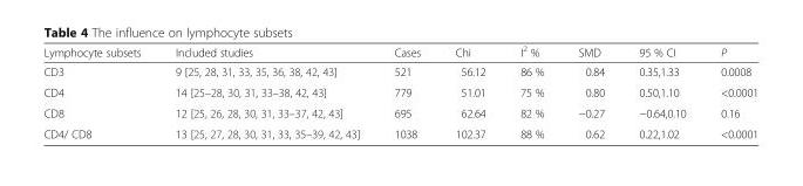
<table><thead><tr><td>Lymphocyte subsets</td><td>Included studies</td><td>Cases</td><td>Chi</td><td>I<sup>2</sup> %</td><td>SMD</td><td>95 % CI</td><td>P</td></tr></thead><tbody><tr><td>CD3</td><td>9 [25, 28, 31, 33, 35, 36, 38, 42, 43]</td><td>521</td><td>56.12</td><td>86 %</td><td>0.84</td><td>0.35,1.33</td><td>0.0008</td></tr><tr><td>CD4</td><td>14 [25–28, 30, 31, 33–38, 42, 43]</td><td>779</td><td>51.01</td><td>75 %</td><td>0.80</td><td>0.50,1.10</td><td>&lt;0.0001</td></tr><tr><td>CD8</td><td>12 [25, 26, 28, 30, 31, 33–37, 42, 43]</td><td>695</td><td>62.64</td><td>82 %</td><td>−0.27</td><td>−0.64,0.10</td><td>0.16</td></tr><tr><td>CD4/ CD8</td><td>13 [25, 27, 28, 30, 31, 33, 35–39, 42, 43]</td><td>1038</td><td>102.37</td><td>88 %</td><td>0.62</td><td>0.22,1.02</td><td>&lt;0.0001</td></tr></tbody></table>